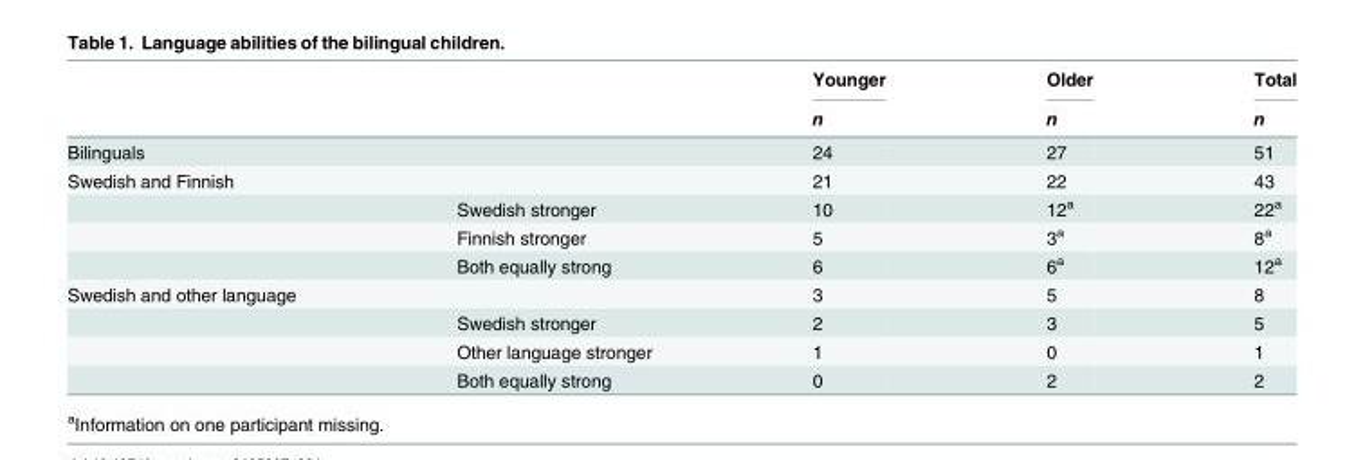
<table><thead><tr><td rowspan="2"></td><td rowspan="2"></td><td rowspan="2">Younger n</td><td rowspan="2">Older n</td><td rowspan="2">Total n</td></tr><tr></tr></thead><tbody><tr><td>Bilinguals</td><td></td><td>24</td><td>27</td><td>51</td></tr><tr><td rowspan="4">Swedish and Finnish</td><td></td><td>21</td><td>22</td><td>43</td></tr><tr><td>Swedish stronger</td><td>10</td><td>12<sup>a</sup></td><td>22<sup>a</sup></td></tr><tr><td>Finnish stronger</td><td>5</td><td>3<sup>a</sup></td><td>8<sup>a</sup></td></tr><tr><td>Both equally strong</td><td>6</td><td>6<sup>a</sup></td><td>12<sup>a</sup></td></tr><tr><td rowspan="4">Swedish and other language</td><td></td><td>3</td><td>5</td><td>8</td></tr><tr><td>Swedish stronger</td><td>2</td><td>3</td><td>5</td></tr><tr><td>Other language stronger</td><td>1</td><td>0</td><td>1</td></tr><tr><td>Both equally strong</td><td>0</td><td>2</td><td>2</td></tr></tbody></table>